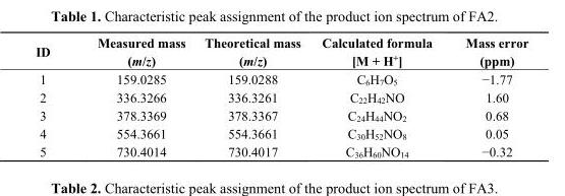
<table><thead><tr><td>ID</td><td>Measured mass (m/z)</td><td>Theoretical mass (m/z)</td><td>Calculated formula [M + H<sup>+</sup>]</td><td>Mass error (ppm)</td></tr></thead><tbody><tr><td>1</td><td>159.0285</td><td>159.0288</td><td>C<sub>6</sub>H<sub>7</sub>O<sub>5</sub></td><td>−1.77</td></tr><tr><td>2</td><td>336.3266</td><td>336.3261</td><td>C<sub>22</sub>H<sub>42</sub>NO</td><td>1.60</td></tr><tr><td>3</td><td>378.3369</td><td>378.3367</td><td>C<sub>24</sub>H<sub>44</sub>NO<sub>2</sub></td><td>0.68</td></tr><tr><td>4</td><td>554.3661</td><td>554.3661</td><td>C<sub>30</sub>H<sub>52</sub>NO<sub>8</sub></td><td>0.05</td></tr><tr><td>5</td><td>730.4014</td><td>730.4017</td><td>C<sub>36</sub>H<sub>60</sub>NO<sub>14</sub></td><td>−0.32</td></tr></tbody></table>